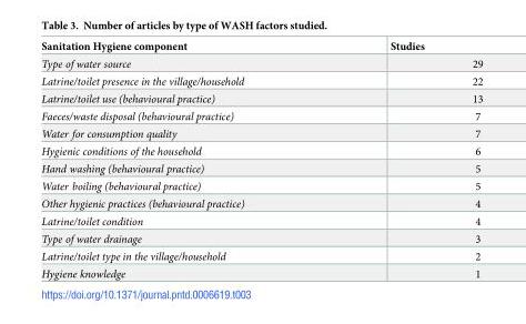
<table><thead><tr><td>Sanitation Hygiene component</td><td>Studies</td></tr></thead><tbody><tr><td>Type of water source</td><td>29</td></tr><tr><td>Latrine/toilet presence in the village/household</td><td>22</td></tr><tr><td>Latrine/toilet use (behavioural practice)</td><td>13</td></tr><tr><td>Faeces/waste disposal (behavioural practice)</td><td>7</td></tr><tr><td>Water for consumption quality</td><td>7</td></tr><tr><td>Hygienic conditions of the household</td><td>6</td></tr><tr><td>Hand washing (behavioural practice)</td><td>5</td></tr><tr><td>Water boiling (behavioural practice)</td><td>5</td></tr><tr><td>Other hygienic practices (behavioural practice)</td><td>4</td></tr><tr><td>Latrine/toilet condition</td><td>4</td></tr><tr><td>Type of water drainage</td><td>3</td></tr><tr><td>Latrine/toilet type in the village/household</td><td>2</td></tr><tr><td>Hygiene knowledge</td><td>1</td></tr></tbody></table>